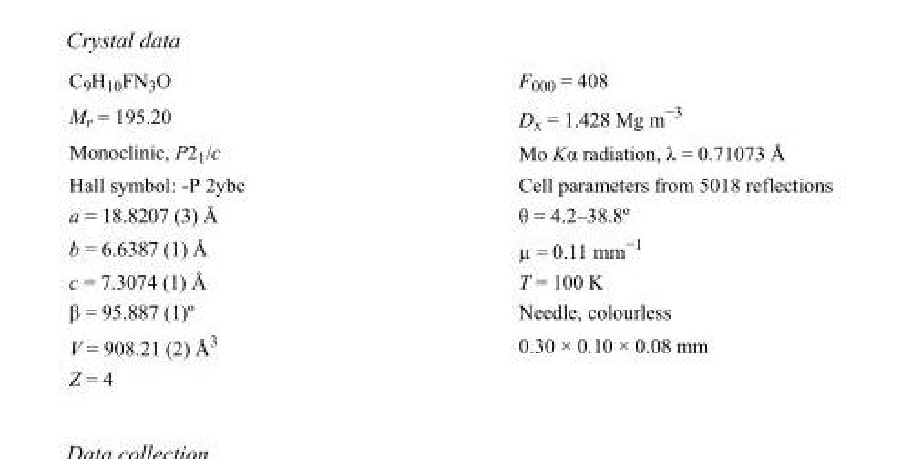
<table><tbody><tr><td>C<sub>9</sub>H<sub>10</sub>FN<sub>3</sub>O</td><td>F000 = 408</td></tr><tr><td>M<sub>r</sub> = 195.20</td><td>D<sub>x</sub> = 1.428 Mg m<sup>−3</sup></td></tr><tr><td>Monoclinic, P2<sub>1</sub>/c</td><td>Mo Kα radiation, λ = 0.71073 Å</td></tr><tr><td>Hall symbol: -P 2ybc</td><td>Cell parameters from 5018 reflections</td></tr><tr><td>a = 18.8207 (3) Å</td><td>θ = 4.2–38.8º</td></tr><tr><td>b = 6.6387 (1) Å</td><td>µ = 0.11 mm<sup>−1</sup></td></tr><tr><td>c = 7.3074 (1) Å</td><td>T = 100 K</td></tr><tr><td>β = 95.887 (1)º</td><td>Needle, colourless</td></tr><tr><td>V = 908.21 (2) Å<sup>3</sup></td><td>0.30 × 0.10 × 0.08 mm</td></tr><tr><td>Z = 4</td><td></td></tr></tbody></table>